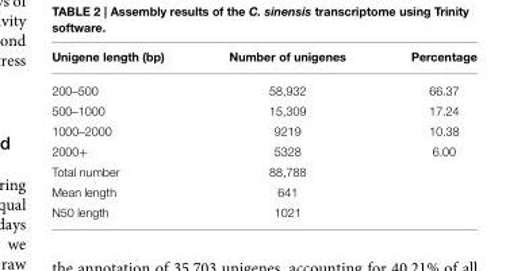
<table><thead><tr><td>Unigene length (bp)</td><td>Number of unigenes</td><td>Percentage</td></tr></thead><tbody><tr><td>200–500</td><td>58,932</td><td>66.37</td></tr><tr><td>500–1000</td><td>15,309</td><td>17.24</td></tr><tr><td>1000–2000</td><td>9219</td><td>10.38</td></tr><tr><td>2000+</td><td>5328</td><td>6.00</td></tr><tr><td>Total number</td><td>88,788</td><td></td></tr><tr><td>Mean length</td><td>641</td><td></td></tr><tr><td>N50 length</td><td>1021</td><td></td></tr></tbody></table>